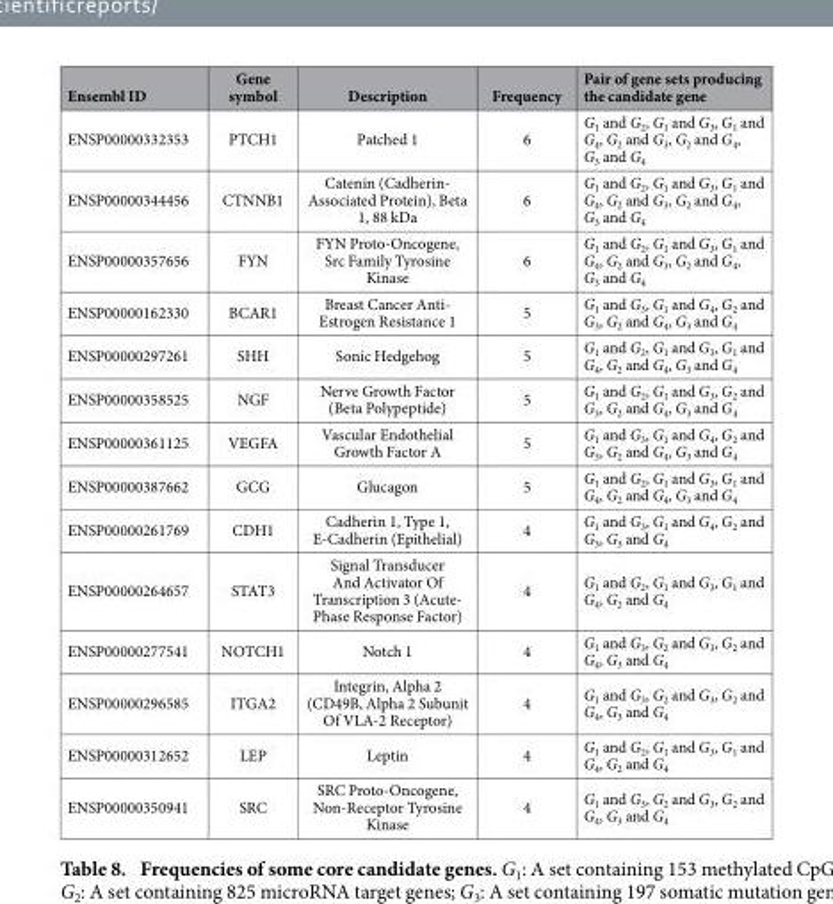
<table><thead><tr><td>Ensembl ID</td><td>Gene symbol</td><td>Description</td><td>Frequency</td><td>Pair of gene sets producing the candidate gene</td></tr></thead><tbody><tr><td>ENSP00000332353</td><td>PTCH1</td><td>Patched 1</td><td>6</td><td>G<sub>1</sub> and G<sub>2</sub>, G<sub>1</sub> and G<sub>3</sub>, G<sub>1</sub> and G<sub>4</sub>, G<sub>2</sub> and G<sub>3</sub>, G<sub>2</sub> and G<sub>4</sub>, G<sub>3</sub> and G<sub>4</sub></td></tr><tr><td>ENSP00000344456</td><td>CTNNB1</td><td>Catenin (Cadherin- Associated Protein), Beta 1, 88 kDa</td><td>6</td><td>G<sub>1</sub> and G<sub>2</sub>, G<sub>1</sub> and G<sub>3</sub>, G<sub>1</sub> and G<sub>4</sub>, G<sub>2</sub> and G<sub>3</sub>, G<sub>2</sub> and G<sub>4</sub>, G<sub>3</sub> and G<sub>4</sub></td></tr><tr><td>ENSP00000357656</td><td>FYN</td><td>FYN Proto-Oncogene, Src Family Tyrosine Kinase</td><td>6</td><td>G<sub>1</sub> and G<sub>2</sub>, G<sub>1</sub> and G<sub>3</sub>, G<sub>1</sub> and G<sub>4</sub>, G<sub>2</sub> and G<sub>3</sub>, G<sub>2</sub> and G<sub>4</sub>, G<sub>3</sub> and G<sub>4</sub></td></tr><tr><td>ENSP00000162330</td><td>BCAR1</td><td>Breast Cancer Anti- Estrogen Resistance 1</td><td>5</td><td>G<sub>1</sub> and G<sub>3</sub>, G<sub>1</sub> and G<sub>4</sub>, G<sub>2</sub> and G<sub>3</sub>, G<sub>2</sub> and G<sub>4</sub>, G<sub>3</sub> and G<sub>4</sub></td></tr><tr><td>ENSP00000297261</td><td>SHH</td><td>Sonic Hedgehog</td><td>5</td><td>G<sub>1</sub> and G<sub>2</sub>, G<sub>1</sub> and G<sub>3</sub>, G<sub>1</sub> and G<sub>4</sub>, G<sub>2</sub> and G<sub>4</sub>, G<sub>3</sub> and G<sub>4</sub></td></tr><tr><td>ENSP00000358525</td><td>NGF</td><td>Nerve Growth Factor (Beta Polypeptide)</td><td>5</td><td>G<sub>1</sub> and G<sub>2</sub>, G<sub>1</sub> and G<sub>3</sub>, G<sub>2</sub> and G<sub>3</sub>, G<sub>2</sub> and G<sub>4</sub>, G<sub>3</sub> and G<sub>4</sub></td></tr><tr><td>ENSP00000361125</td><td>VEGFA</td><td>Vascular Endothelial Growth Factor A</td><td>5</td><td>G<sub>1</sub> and G<sub>3</sub>, G<sub>1</sub> and G<sub>4</sub>, G<sub>2</sub> and G<sub>3</sub>, G<sub>2</sub> and G<sub>4</sub>, G<sub>3</sub> and G<sub>4</sub></td></tr><tr><td>ENSP00000387662</td><td>GCG</td><td>Glucagon</td><td>5</td><td>G<sub>1</sub> and G<sub>2</sub>, G<sub>1</sub> and G<sub>3</sub>, G<sub>1</sub> and G<sub>4</sub>, G<sub>2</sub> and G<sub>4</sub>, G<sub>3</sub> and G<sub>4</sub></td></tr><tr><td>ENSP00000261769</td><td>CDH1</td><td>Cadherin 1, Type 1, E-Cadherin (Epithelial)</td><td>4</td><td>G<sub>1</sub> and G<sub>3</sub>, G<sub>1</sub> and G<sub>4</sub>, G<sub>2</sub> and G<sub>3</sub>, G<sub>3</sub> and G<sub>4</sub></td></tr><tr><td>ENSP00000264657</td><td>STAT3</td><td>Signal Transducer And Activator Of Transcription 3 (Acute- Phase Response Factor)</td><td>4</td><td>G<sub>1</sub> and G<sub>2</sub>, G<sub>1</sub> and G<sub>3</sub>, G<sub>1</sub> and G<sub>4</sub>, G<sub>2</sub> and G<sub>4</sub></td></tr><tr><td>ENSP00000277541</td><td>NOTCH1</td><td>Notch 1</td><td>4</td><td>G<sub>1</sub> and G<sub>3</sub>, G<sub>2</sub> and G<sub>3</sub>, G<sub>2</sub> and G<sub>4</sub>, G<sub>3</sub> and G<sub>4</sub></td></tr><tr><td>ENSP00000296585</td><td>ITGA2</td><td>Integrin, Alpha 2 (CD49B, Alpha 2 Subunit Of VLA-2 Receptor)</td><td>4</td><td>G<sub>1</sub> and G<sub>3</sub>, G<sub>2</sub> and G<sub>3</sub>, G<sub>2</sub> and G<sub>4</sub>, G<sub>3</sub> and G<sub>4</sub></td></tr><tr><td>ENSP00000312652</td><td>LEP</td><td>Leptin</td><td>4</td><td>G<sub>1</sub> and G<sub>2</sub>, G<sub>1</sub> and G<sub>3</sub>, G<sub>1</sub> and G<sub>4</sub>, G<sub>2</sub> and G<sub>4</sub></td></tr><tr><td>ENSP00000350941</td><td>SRC</td><td>SRC Proto-Oncogene, Non-Receptor Tyrosine Kinase</td><td>4</td><td>G<sub>1</sub> and G<sub>3</sub>, G<sub>2</sub> and G<sub>3</sub>, G<sub>2</sub> and G<sub>4</sub>, G<sub>3</sub> and G<sub>4</sub></td></tr></tbody></table>